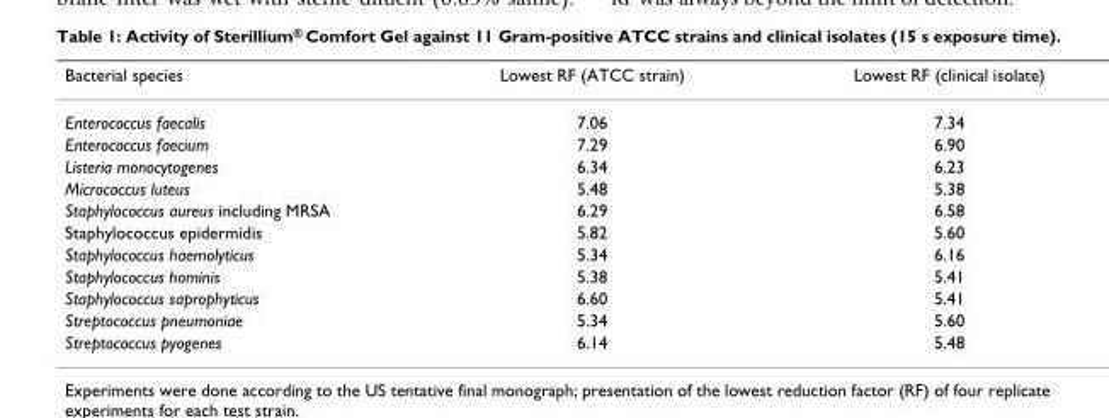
<table><thead><tr><td>Bacterial species</td><td>Lowest RF (ATCC strain)</td><td>Lowest RF (clinical isolate)</td></tr></thead><tbody><tr><td>Enterococcus faecalis</td><td>7.06</td><td>7.34</td></tr><tr><td>Enterococcus faecium</td><td>7.29</td><td>6.90</td></tr><tr><td>Listeria monocytogenes</td><td>6.34</td><td>6.23</td></tr><tr><td>Micrococcus luteus</td><td>5.48</td><td>5.38</td></tr><tr><td>Staphylococcus aureus including MRSA</td><td>6.29</td><td>6.58</td></tr><tr><td>Staphylococcus epidermidis</td><td>5.82</td><td>5.60</td></tr><tr><td>Staphylococcus haemolyticus</td><td>5.34</td><td>6.16</td></tr><tr><td>Staphylococcus hominis</td><td>5.38</td><td>5.41</td></tr><tr><td>Staphylococcus saprophyticus</td><td>6.60</td><td>5.41</td></tr><tr><td>Streptococcus pneumoniae</td><td>5.34</td><td>5.60</td></tr><tr><td>Streptococcus pyogenes</td><td>6.14</td><td>5.48</td></tr></tbody></table>